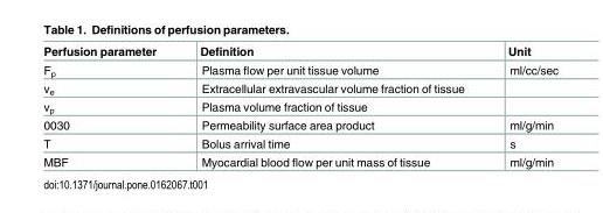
<table><thead><tr><td>Perfusion parameter</td><td>Definition</td><td>Unit</td></tr></thead><tbody><tr><td>F<sub>p</sub></td><td>Plasma flow per unit tissue volume</td><td>ml/cc/sec</td></tr><tr><td>v<sub>e</sub></td><td>Extracellular extravascular volume fraction of tissue</td><td></td></tr><tr><td>v<sub>p</sub></td><td>Plasma volume fraction of tissue</td><td></td></tr><tr><td>0030</td><td>Permeability surface area product</td><td>ml/g/min</td></tr><tr><td>Τ</td><td>Bolus arrival time</td><td>s</td></tr><tr><td>MBF</td><td>Myocardial blood flow per unit mass of tissue</td><td>ml/g/min</td></tr></tbody></table>